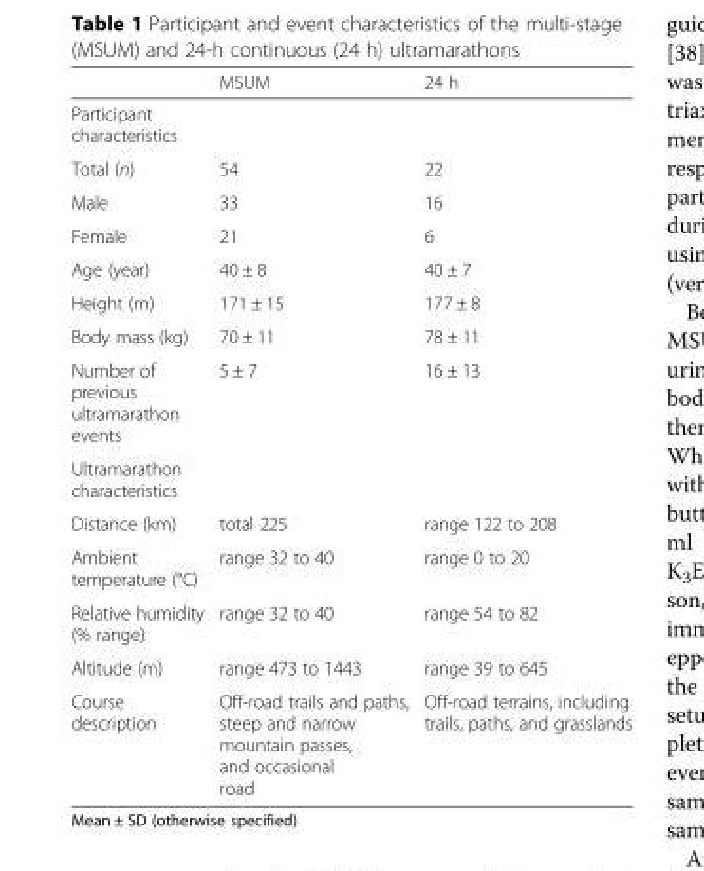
<table><thead><tr><td></td><td>MSUM</td><td>24 h</td></tr></thead><tbody><tr><td colspan="3">Participant characteristics</td></tr><tr><td>Total (n)</td><td>54</td><td>22</td></tr><tr><td>Male</td><td>33</td><td>16</td></tr><tr><td>Female</td><td>21</td><td>6</td></tr><tr><td>Age (year)</td><td>40 ± 8</td><td>40 ± 7</td></tr><tr><td>Height (m)</td><td>171 ± 15</td><td>177 ± 8</td></tr><tr><td>Body mass (kg)</td><td>70 ± 11</td><td>78 ± 11</td></tr><tr><td>Number of previous ultramarathon events</td><td>5 ± 7</td><td>16 ± 13</td></tr><tr><td colspan="3">Ultramarathon characteristics</td></tr><tr><td>Distance (km)</td><td>total 225</td><td>range 122 to 208</td></tr><tr><td>Ambient temperature (°C)</td><td>range 32 to 40</td><td>range 0 to 20</td></tr><tr><td>Relative humidity (% range)</td><td>range 32 to 40</td><td>range 54 to 82</td></tr><tr><td>Altitude (m)</td><td>range 473 to 1443</td><td>range 39 to 645</td></tr><tr><td>Course description</td><td>Off-road trails and paths, steep and narrow mountain passes, and occasional road</td><td>Off-road terrains, including trails, paths, and grasslands</td></tr></tbody></table>